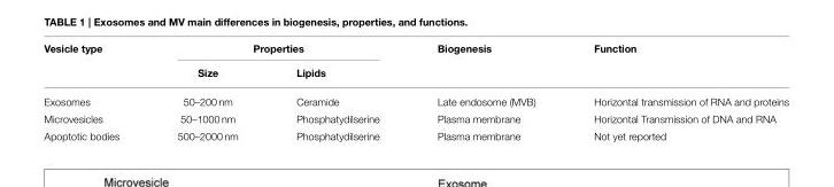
<table><thead><tr><td rowspan="2">Vesicle type</td><td colspan="2">Properties</td><td rowspan="2">Biogenesis</td><td rowspan="2">Function</td></tr><tr><td>Size</td><td>Lipids</td></tr></thead><tbody><tr><td>Exosomes</td><td>50–200 nm</td><td>Ceramide</td><td>Late endosome (MVB)</td><td>Horizontal transmission of RNA and proteins</td></tr><tr><td>Microvesicles</td><td>50–1000 nm</td><td>Phosphatydilserine</td><td>Plasma membrane</td><td>Horizontal Transmission of DNA and RNA</td></tr><tr><td>Apoptotic bodies</td><td>500–2000 nm</td><td>Phosphatydilserine</td><td>Plasma membrane</td><td>Not yet reported</td></tr></tbody></table>